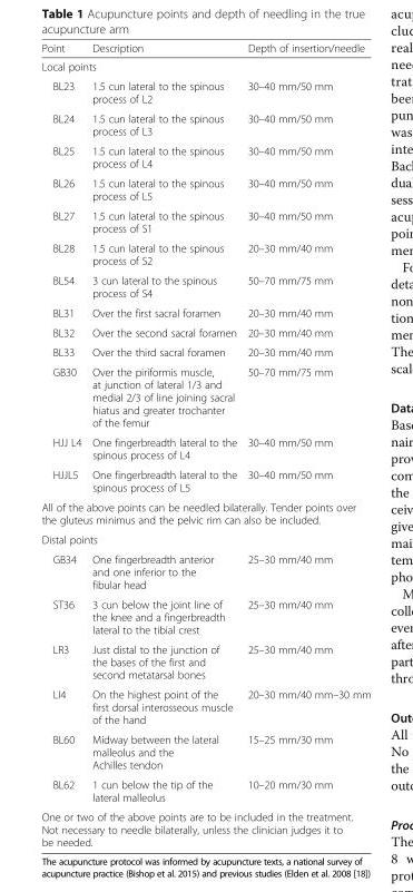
<table><thead><tr><td>Point</td><td>Description</td><td>Depth of insertion/needle</td></tr></thead><tbody><tr><td colspan="3">Local points</td></tr><tr><td>BL23</td><td>1.5 cun lateral to the spinous process of L2</td><td>30–40 mm/50 mm</td></tr><tr><td>BL24</td><td>1.5 cun lateral to the spinous process of L3</td><td>30–40 mm/50 mm</td></tr><tr><td>BL25</td><td>1.5 cun lateral to the spinous process of L4</td><td>30–40 mm/50 mm</td></tr><tr><td>BL26</td><td>1.5 cun lateral to the spinous process of L5</td><td>30–40 mm/50 mm</td></tr><tr><td>BL27</td><td>1.5 cun lateral to the spinous process of S1</td><td>30–40 mm/50 mm</td></tr><tr><td>BL28</td><td>1.5 cun lateral to the spinous process of S2</td><td>20–30 mm/40 mm</td></tr><tr><td>BL54</td><td>3 cun lateral to the spinous process of S4</td><td>50–70 mm/75 mm</td></tr><tr><td>BL31</td><td>Over the first sacral foramen</td><td>20–30 mm/40 mm</td></tr><tr><td>BL32</td><td>Over the second sacral foramen</td><td>20–30 mm/40 mm</td></tr><tr><td>BL33</td><td>Over the third sacral foramen</td><td>20–30 mm/40 mm</td></tr><tr><td>GB30</td><td>Over the piriformis muscle, at junction of lateral 1/3 and medial 2/3 of line joining sacral hiatus and greater trochanter of the femur</td><td>50–70 mm/75 mm</td></tr><tr><td>HJJ L4</td><td>One fingerbreadth lateral to the spinous process of L4</td><td>30–40 mm/50 mm</td></tr><tr><td>HJJL5</td><td>One fingerbreadth lateral to the spinous process of L5</td><td>30–40 mm/50 mm</td></tr><tr><td colspan="3">All of the above points can be needled bilaterally. Tender points over the gluteus minimus and the pelvic rim can also be included.</td></tr><tr><td colspan="3">Distal points</td></tr><tr><td>GB34</td><td>One fingerbreadth anterior and one inferior to the fibular head</td><td>25–30 mm/40 mm</td></tr><tr><td>ST36</td><td>3 cun below the joint line of the knee and a fingerbreadth lateral to the tibial crest</td><td>25–30 mm/40 mm</td></tr><tr><td>LR3</td><td>Just distal to the junction of the bases of the first and second metatarsal bones</td><td>25–30 mm/40 mm</td></tr><tr><td>LI4</td><td>On the highest point of the first dorsal interosseous muscle of the hand</td><td>20–30 mm/40 mm–30 mm</td></tr><tr><td>BL60</td><td>Midway between the lateral malleolus and the Achilles tendon</td><td>15–25 mm/30 mm</td></tr><tr><td>BL62</td><td>1 cun below the tip of the lateral malleolus</td><td>10–20 mm/30 mm</td></tr><tr><td colspan="3">One or two of the above points are to be included in the treatment. Not necessary to needle bilaterally, unless the clinician judges it to be needed.</td></tr></tbody></table>